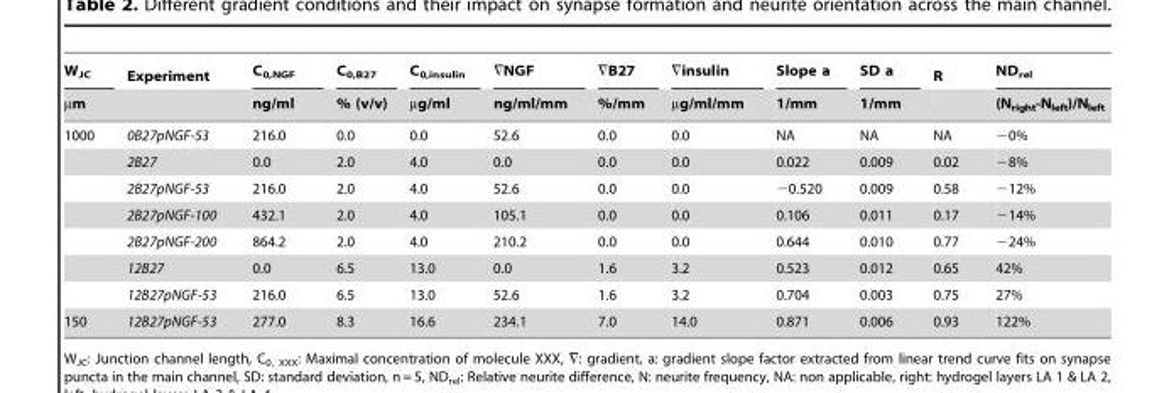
<table><thead><tr><td rowspan="2">W<sub>JC</sub> µm</td><td rowspan="2">Experiment</td><td rowspan="2">C<sub>0,NGF</sub> ng/ml</td><td rowspan="2">C<sub>0,B27</sub> % (v/v)</td><td rowspan="2">C<sub>0,insulin</sub> µg/ml</td><td rowspan="2">=NGF ng/ml/mm</td><td rowspan="2">=B27 %/mm</td><td rowspan="2">=insulin mg/ml/mm</td><td rowspan="2">Slope a 1/mm</td><td rowspan="2">SD a 1/mm</td><td rowspan="2">R</td><td rowspan="2">ND<sub>rel</sub> (N<sub>right</sub>-N<sub>left</sub>)/N<sub>left</sub></td></tr><tr></tr></thead><tbody><tr><td rowspan="7">1000</td><td>0B27pNGF-53</td><td>216.0</td><td>0.0</td><td>0.0</td><td>52.6</td><td>0.0</td><td>0.0</td><td>NA</td><td>NA</td><td>NA</td><td>∼0%</td></tr><tr><td>2B27</td><td>0.0</td><td>2.0</td><td>4.0</td><td>0.0</td><td>0.0</td><td>0.0</td><td>0.022</td><td>0.009</td><td>0.02</td><td>−8%</td></tr><tr><td>2B27pNGF-53</td><td>216.0</td><td>2.0</td><td>4.0</td><td>52.6</td><td>0.0</td><td>0.0</td><td>−0.520</td><td>0.009</td><td>0.58</td><td>−12%</td></tr><tr><td>2B27pNGF-100</td><td>432.1</td><td>2.0</td><td>4.0</td><td>105.1</td><td>0.0</td><td>0.0</td><td>0.106</td><td>0.011</td><td>0.17</td><td>−14%</td></tr><tr><td>2B27pNGF-200</td><td>864.2</td><td>2.0</td><td>4.0</td><td>210.2</td><td>0.0</td><td>0.0</td><td>0.644</td><td>0.010</td><td>0.77</td><td>−24%</td></tr><tr><td>12B27</td><td>0.0</td><td>6.5</td><td>13.0</td><td>0.0</td><td>1.6</td><td>3.2</td><td>0.523</td><td>0.012</td><td>0.65</td><td>42%</td></tr><tr><td>12B27pNGF-53</td><td>216.0</td><td>6.5</td><td>13.0</td><td>52.6</td><td>1.6</td><td>3.2</td><td>0.704</td><td>0.003</td><td>0.75</td><td>27%</td></tr><tr><td>150</td><td>12B27pNGF-53</td><td>277.0</td><td>8.3</td><td>16.6</td><td>234.1</td><td>7.0</td><td>14.0</td><td>0.871</td><td>0.006</td><td>0.93</td><td>122%</td></tr></tbody></table>